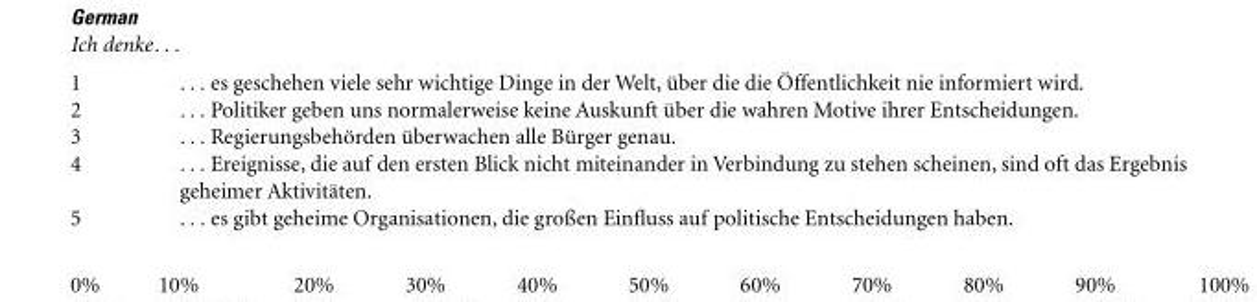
<table><tbody><tr><td>1</td><td>. . . es geschehen viele sehr wichtige Dinge in der Welt, über die die Öffentlichkeit nie informiert wird.</td></tr><tr><td>2</td><td>. . . Politiker geben uns normalerweise keine Auskunft über die wahren Motive ihrer Entscheidungen.</td></tr><tr><td>3</td><td>. . . Regierungsbehörden überwachen alle Bürger genau.</td></tr><tr><td>4</td><td>. . . Ereignisse, die auf den ersten Blick nicht miteinander in Verbindung zu stehen scheinen, sind oft das Ergebnis geheimer Aktivitäten.</td></tr><tr><td>5</td><td>. . . es gibt geheime Organisationen, die großen Einfluss auf politische Entscheidungen haben.</td></tr></tbody></table>